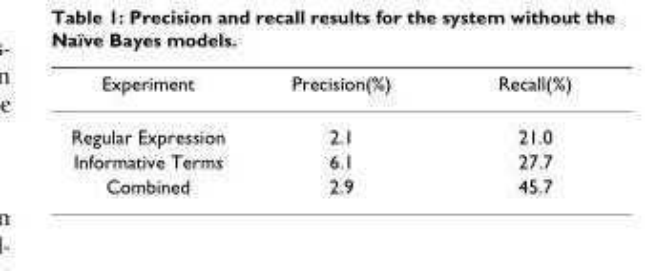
<table><thead><tr><td>Experiment</td><td>Precision(%)</td><td>Recall(%)</td></tr></thead><tbody><tr><td>Regular Expression</td><td>2.1</td><td>21.0</td></tr><tr><td>Informative Terms</td><td>6.1</td><td>27.7</td></tr><tr><td>Combined</td><td>2.9</td><td>45.7</td></tr></tbody></table>